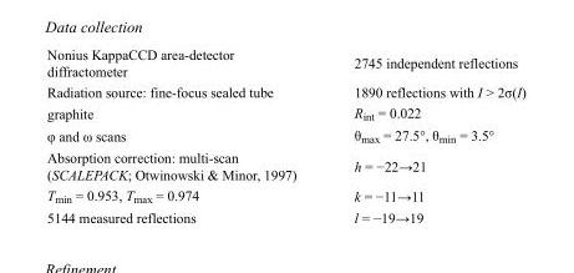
<table><tbody><tr><td>Nonius KappaCCD area-detector diffractometer</td><td>2745 independent reflections</td></tr><tr><td>Radiation source: fine-focus sealed tube</td><td>1890 reflections with I &gt; 2σ(I)</td></tr><tr><td>graphite</td><td>R<sub>int</sub> = 0.022</td></tr><tr><td>φ and ω scans</td><td>θ<sub>max</sub> = 27.5°, θ<sub>min</sub> = 3.5°</td></tr><tr><td>Absorption correction: multi-scan (SCALEPACK; Otwinowski &amp; Minor, 1997)</td><td>h = −22→21</td></tr><tr><td>T<sub>min</sub> = 0.953, T<sub>max</sub> = 0.974</td><td>k = −11→11</td></tr><tr><td>5144 measured reflections</td><td>l = −19→19</td></tr></tbody></table>